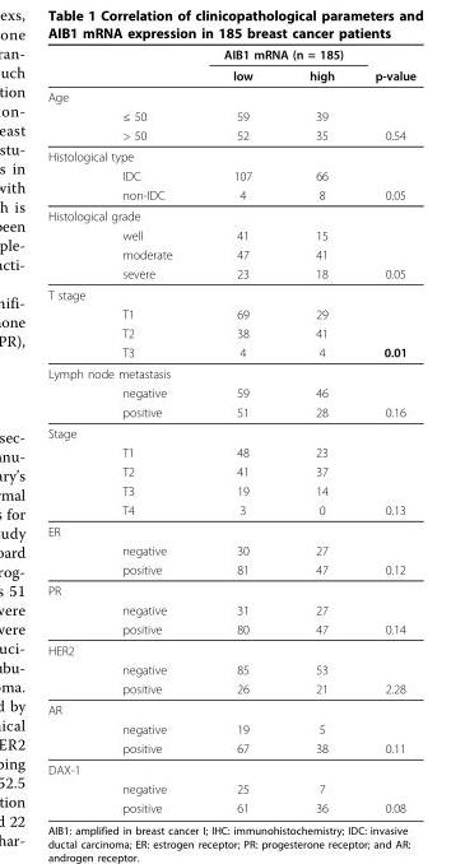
<table><thead><tr><td rowspan="2"></td><td rowspan="2"></td><td colspan="2">AIB1 mRNA (n = 185)</td><td rowspan="2">p-value</td></tr><tr><td>low</td><td>high</td></tr></thead><tbody><tr><td colspan="5">Age</td></tr><tr><td></td><td>≤ 50</td><td>59</td><td>39</td><td></td></tr><tr><td></td><td>&gt; 50</td><td>52</td><td>35</td><td>0.54</td></tr><tr><td colspan="5">Histological type</td></tr><tr><td></td><td>IDC</td><td>107</td><td>66</td><td></td></tr><tr><td></td><td>non-IDC</td><td>4</td><td>8</td><td>0.05</td></tr><tr><td colspan="5">Histological grade</td></tr><tr><td></td><td>well</td><td>41</td><td>15</td><td></td></tr><tr><td></td><td>moderate</td><td>47</td><td>41</td><td></td></tr><tr><td></td><td>severe</td><td>23</td><td>18</td><td>0.05</td></tr><tr><td colspan="5">T stage</td></tr><tr><td></td><td>T1</td><td>69</td><td>29</td><td></td></tr><tr><td></td><td>T2</td><td>38</td><td>41</td><td></td></tr><tr><td></td><td>T3</td><td>4</td><td>4</td><td>0.01</td></tr><tr><td colspan="5">Lymph node metastasis</td></tr><tr><td></td><td>negative</td><td>59</td><td>46</td><td></td></tr><tr><td></td><td>positive</td><td>51</td><td>28</td><td>0.16</td></tr><tr><td colspan="5">Stage</td></tr><tr><td></td><td>T1</td><td>48</td><td>23</td><td></td></tr><tr><td></td><td>T2</td><td>41</td><td>37</td><td></td></tr><tr><td></td><td>T3</td><td>19</td><td>14</td><td></td></tr><tr><td></td><td>T4</td><td>3</td><td>0</td><td>0.13</td></tr><tr><td colspan="5">ER</td></tr><tr><td></td><td>negative</td><td>30</td><td>27</td><td></td></tr><tr><td></td><td>positive</td><td>81</td><td>47</td><td>0.12</td></tr><tr><td colspan="5">PR</td></tr><tr><td></td><td>negative</td><td>31</td><td>27</td><td></td></tr><tr><td></td><td>positive</td><td>80</td><td>47</td><td>0.14</td></tr><tr><td colspan="5">HER2</td></tr><tr><td></td><td>negative</td><td>85</td><td>53</td><td></td></tr><tr><td></td><td>positive</td><td>26</td><td>21</td><td>2.28</td></tr><tr><td colspan="5">AR</td></tr><tr><td></td><td>negative</td><td>19</td><td>5</td><td></td></tr><tr><td></td><td>positive</td><td>67</td><td>38</td><td>0.11</td></tr><tr><td colspan="5">DAX-1</td></tr><tr><td></td><td>negative</td><td>25</td><td>7</td><td></td></tr><tr><td></td><td>positive</td><td>61</td><td>36</td><td>0.08</td></tr></tbody></table>